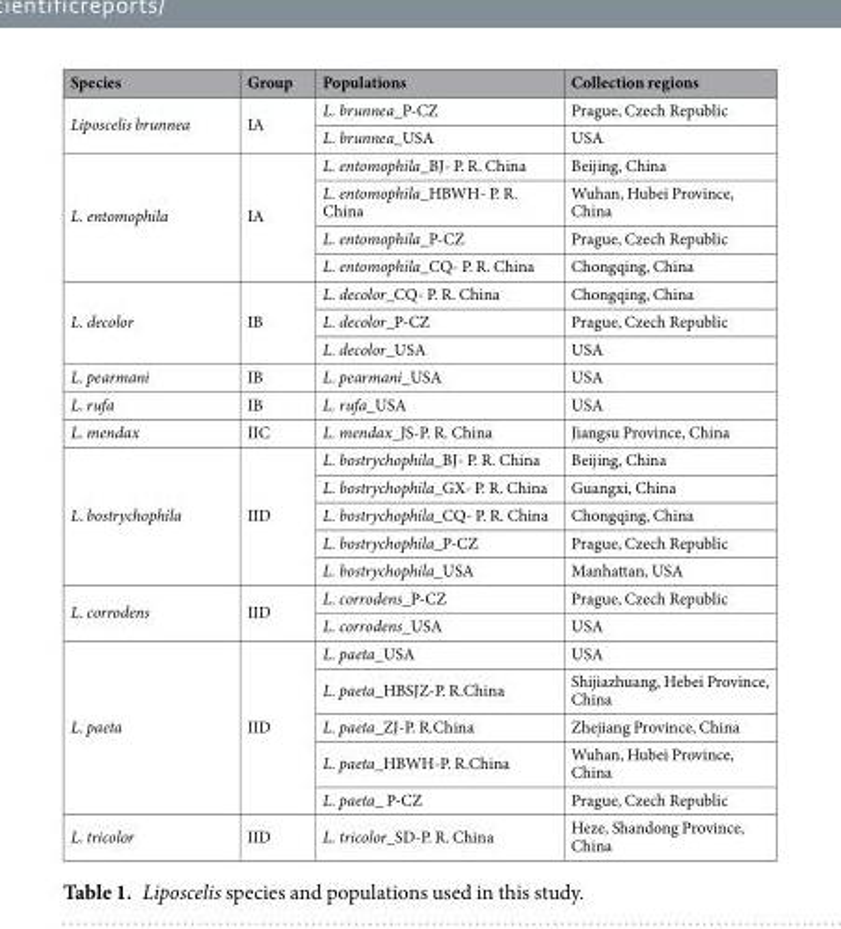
<table><thead><tr><td>Species</td><td>Group</td><td>Populations</td><td>Collection regions</td></tr></thead><tbody><tr><td rowspan="2">Liposcelis brunnea</td><td rowspan="2">IA</td><td>L. brunnea_P-CZ</td><td>Prague, Czech Republic</td></tr><tr><td>L. brunnea_USA</td><td>USA</td></tr><tr><td rowspan="4">L. entomophila</td><td rowspan="4">IA</td><td>L. entomophila_BJ- P. R. China</td><td>Beijing, China</td></tr><tr><td>L. entomophila_HBWH- P. R. China</td><td>Wuhan, Hubei Province, China</td></tr><tr><td>L. entomophila_P-CZ</td><td>Prague, Czech Republic</td></tr><tr><td>L. entomophila_CQ- P. R. China</td><td>Chongqing, China</td></tr><tr><td rowspan="3">L. decolor</td><td rowspan="3">IB</td><td>L. decolor_CQ- P. R. China</td><td>Chongqing, China</td></tr><tr><td>L. decolor_P-CZ</td><td>Prague, Czech Republic</td></tr><tr><td>L. decolor_USA</td><td>USA</td></tr><tr><td>L. pearmani</td><td>IB</td><td>L. pearmani_USA</td><td>USA</td></tr><tr><td>L. rufa</td><td>IB</td><td>L. rufa_USA</td><td>USA</td></tr><tr><td>L. mendax</td><td>IIC</td><td>L. mendax_JS-P. R. China</td><td>Jiangsu Province, China</td></tr><tr><td rowspan="5">L. bostrychophila</td><td rowspan="5">IID</td><td>L. bostrychophila_BJ- P. R. China</td><td>Beijing, China</td></tr><tr><td>L. bostrychophila_GX- P. R. China</td><td>Guangxi, China</td></tr><tr><td>L. bostrychophila_CQ- P. R. China</td><td>Chongqing, China</td></tr><tr><td>L. bostrychophila_P-CZ</td><td>Prague, Czech Republic</td></tr><tr><td>L. bostrychophila_USA</td><td>Manhattan, USA</td></tr><tr><td rowspan="2">L. corrodens</td><td rowspan="2">IID</td><td>L. corrodens_P-CZ</td><td>Prague, Czech Republic</td></tr><tr><td>L. corrodens_USA</td><td>USA</td></tr><tr><td rowspan="5">L. paeta</td><td rowspan="5">IID</td><td>L. paeta_USA</td><td>USA</td></tr><tr><td>L. paeta_HBSJZ-P. R.China</td><td>Shijiazhuang, Hebei Province, China</td></tr><tr><td>L. paeta_ZJ-P. R.China</td><td>Zhejiang Province, China</td></tr><tr><td>L. paeta_HBWH-P. R.China</td><td>Wuhan, Hubei Province, China</td></tr><tr><td>L. paeta_ P-CZ</td><td>Prague, Czech Republic</td></tr><tr><td>L. tricolor</td><td>IID</td><td>L. tricolor_SD-P. R. China</td><td>Heze, Shandong Province, China</td></tr></tbody></table>